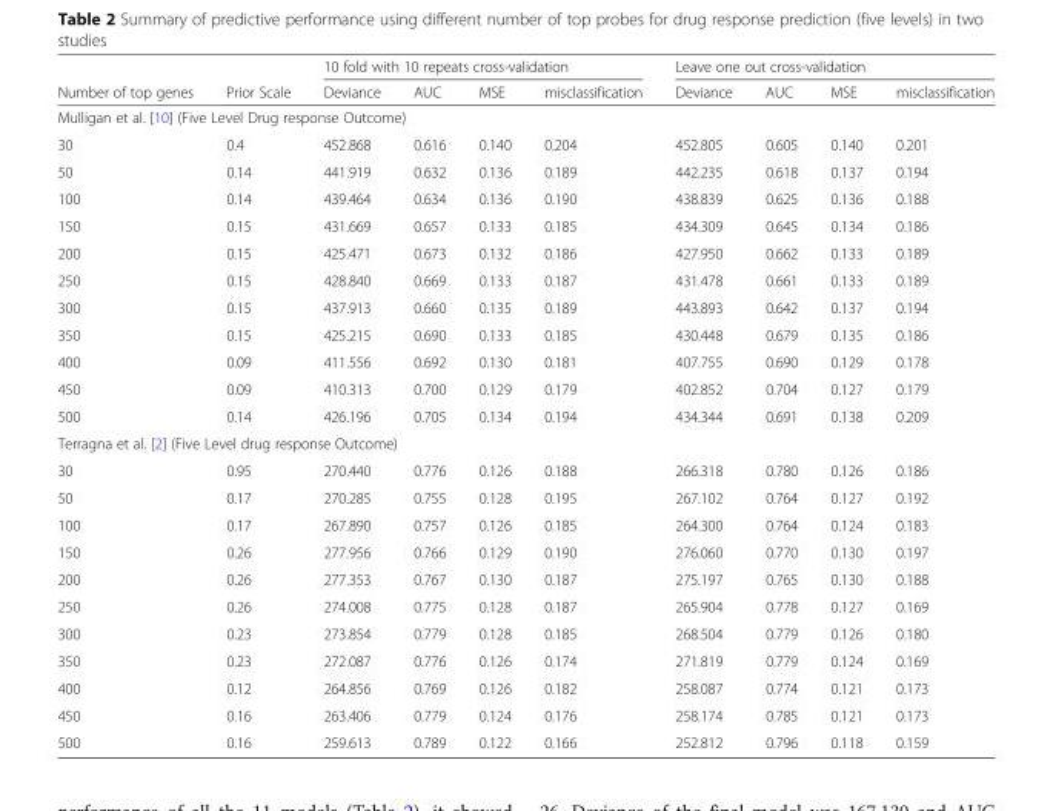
<table><thead><tr><td rowspan="2">Number of top genes</td><td rowspan="2">Prior Scale</td><td colspan="4">10 fold with 10 repeats cross-validation</td><td colspan="4">Leave one out cross-validation</td></tr><tr><td>Deviance</td><td>AUC</td><td>MSE</td><td>misclassification</td><td>Deviance</td><td>AUC</td><td>MSE</td><td>misclassification</td></tr></thead><tbody><tr><td colspan="10">Mulligan et al. [10] (Five Level Drug response Outcome)</td></tr><tr><td>30</td><td>0.4</td><td>452.868</td><td>0.616</td><td>0.140</td><td>0.204</td><td>452.805</td><td>0.605</td><td>0.140</td><td>0.201</td></tr><tr><td>50</td><td>0.14</td><td>441.919</td><td>0.632</td><td>0.136</td><td>0.189</td><td>442.235</td><td>0.618</td><td>0.137</td><td>0.194</td></tr><tr><td>100</td><td>0.14</td><td>439.464</td><td>0.634</td><td>0.136</td><td>0.190</td><td>438.839</td><td>0.625</td><td>0.136</td><td>0.188</td></tr><tr><td>150</td><td>0.15</td><td>431.669</td><td>0.657</td><td>0.133</td><td>0.185</td><td>434.309</td><td>0.645</td><td>0.134</td><td>0.186</td></tr><tr><td>200</td><td>0.15</td><td>425.471</td><td>0.673</td><td>0.132</td><td>0.186</td><td>427.950</td><td>0.662</td><td>0.133</td><td>0.189</td></tr><tr><td>250</td><td>0.15</td><td>428.840</td><td>0.669</td><td>0.133</td><td>0.187</td><td>431.478</td><td>0.661</td><td>0.133</td><td>0.189</td></tr><tr><td>300</td><td>0.15</td><td>437.913</td><td>0.660</td><td>0.135</td><td>0.189</td><td>443.893</td><td>0.642</td><td>0.137</td><td>0.194</td></tr><tr><td>350</td><td>0.15</td><td>425.215</td><td>0.690</td><td>0.133</td><td>0.185</td><td>430.448</td><td>0.679</td><td>0.135</td><td>0.186</td></tr><tr><td>400</td><td>0.09</td><td>411.556</td><td>0.692</td><td>0.130</td><td>0.181</td><td>407.755</td><td>0.690</td><td>0.129</td><td>0.178</td></tr><tr><td>450</td><td>0.09</td><td>410.313</td><td>0.700</td><td>0.129</td><td>0.179</td><td>402.852</td><td>0.704</td><td>0.127</td><td>0.179</td></tr><tr><td>500</td><td>0.14</td><td>426.196</td><td>0.705</td><td>0.134</td><td>0.194</td><td>434.344</td><td>0.691</td><td>0.138</td><td>0.209</td></tr><tr><td colspan="10">Terragna et al. [2] (Five Level drug response Outcome)</td></tr><tr><td>30</td><td>0.95</td><td>270.440</td><td>0.776</td><td>0.126</td><td>0.188</td><td>266.318</td><td>0.780</td><td>0.126</td><td>0.186</td></tr><tr><td>50</td><td>0.17</td><td>270.285</td><td>0.755</td><td>0.128</td><td>0.195</td><td>267.102</td><td>0.764</td><td>0.127</td><td>0.192</td></tr><tr><td>100</td><td>0.17</td><td>267.890</td><td>0.757</td><td>0.126</td><td>0.185</td><td>264.300</td><td>0.764</td><td>0.124</td><td>0.183</td></tr><tr><td>150</td><td>0.26</td><td>277.956</td><td>0.766</td><td>0.129</td><td>0.190</td><td>276.060</td><td>0.770</td><td>0.130</td><td>0.197</td></tr><tr><td>200</td><td>0.26</td><td>277.353</td><td>0.767</td><td>0.130</td><td>0.187</td><td>275.197</td><td>0.765</td><td>0.130</td><td>0.188</td></tr><tr><td>250</td><td>0.26</td><td>274.008</td><td>0.775</td><td>0.128</td><td>0.187</td><td>265.904</td><td>0.778</td><td>0.127</td><td>0.169</td></tr><tr><td>300</td><td>0.23</td><td>273.854</td><td>0.779</td><td>0.128</td><td>0.185</td><td>268.504</td><td>0.779</td><td>0.126</td><td>0.180</td></tr><tr><td>350</td><td>0.23</td><td>272.087</td><td>0.776</td><td>0.126</td><td>0.174</td><td>271.819</td><td>0.779</td><td>0.124</td><td>0.169</td></tr><tr><td>400</td><td>0.12</td><td>264.856</td><td>0.769</td><td>0.126</td><td>0.182</td><td>258.087</td><td>0.774</td><td>0.121</td><td>0.173</td></tr><tr><td>450</td><td>0.16</td><td>263.406</td><td>0.779</td><td>0.124</td><td>0.176</td><td>258.174</td><td>0.785</td><td>0.121</td><td>0.173</td></tr><tr><td>500</td><td>0.16</td><td>259.613</td><td>0.789</td><td>0.122</td><td>0.166</td><td>252.812</td><td>0.796</td><td>0.118</td><td>0.159</td></tr></tbody></table>